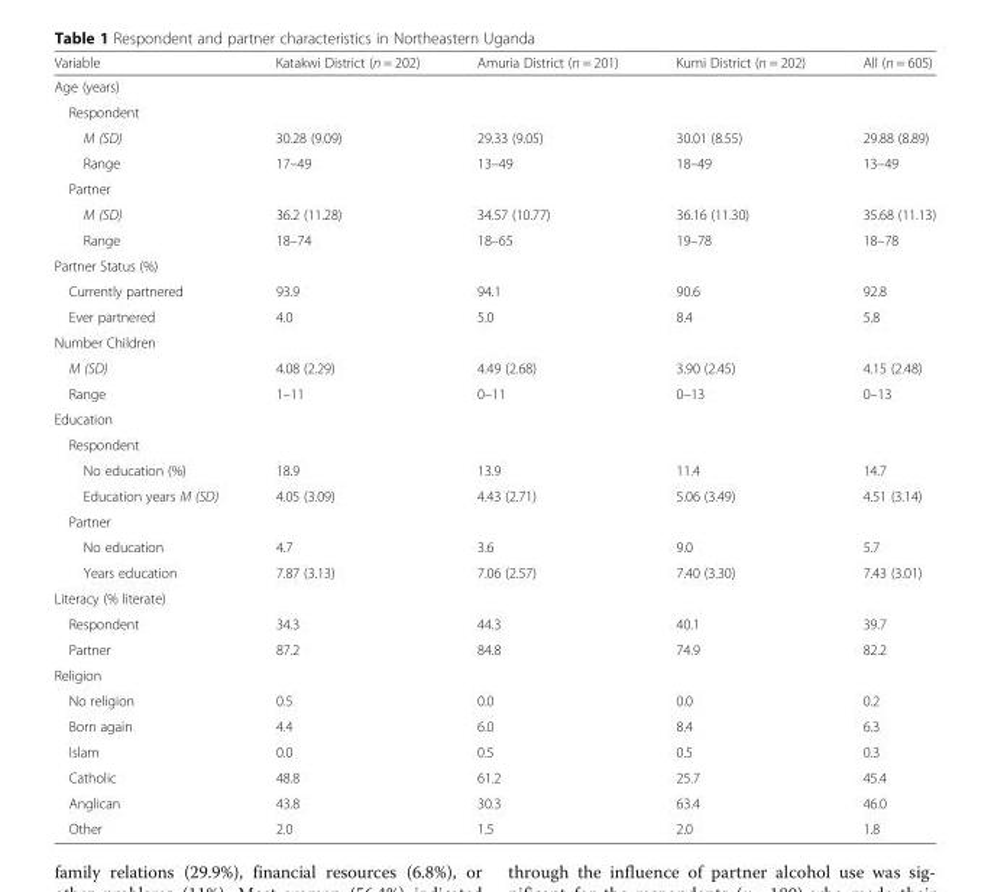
<table><thead><tr><td>Variable</td><td>Katakwi District (n = 202)</td><td>Amuria District (n = 201)</td><td>Kumi District (n = 202)</td><td>All (n = 605)</td></tr></thead><tbody><tr><td colspan="5">Age (years)</td></tr><tr><td colspan="5">Respondent</td></tr><tr><td>M (SD)</td><td>30.28 (9.09)</td><td>29.33 (9.05)</td><td>30.01 (8.55)</td><td>29.88 (8.89)</td></tr><tr><td>Range</td><td>17–49</td><td>13–49</td><td>18–49</td><td>13–49</td></tr><tr><td colspan="5">Partner</td></tr><tr><td>M (SD)</td><td>36.2 (11.28)</td><td>34.57 (10.77)</td><td>36.16 (11.30)</td><td>35.68 (11.13)</td></tr><tr><td>Range</td><td>18–74</td><td>18–65</td><td>19–78</td><td>18–78</td></tr><tr><td colspan="5">Partner Status (%)</td></tr><tr><td>Currently partnered</td><td>93.9</td><td>94.1</td><td>90.6</td><td>92.8</td></tr><tr><td>Ever partnered</td><td>4.0</td><td>5.0</td><td>8.4</td><td>5.8</td></tr><tr><td colspan="5">Number Children</td></tr><tr><td>M (SD)</td><td>4.08 (2.29)</td><td>4.49 (2.68)</td><td>3.90 (2.45)</td><td>4.15 (2.48)</td></tr><tr><td>Range</td><td>1–11</td><td>0–11</td><td>0–13</td><td>0–13</td></tr><tr><td colspan="5">Education</td></tr><tr><td colspan="5">Respondent</td></tr><tr><td>No education (%)</td><td>18.9</td><td>13.9</td><td>11.4</td><td>14.7</td></tr><tr><td>Education years M (SD)</td><td>4.05 (3.09)</td><td>4.43 (2.71)</td><td>5.06 (3.49)</td><td>4.51 (3.14)</td></tr><tr><td colspan="5">Partner</td></tr><tr><td>No education</td><td>4.7</td><td>3.6</td><td>9.0</td><td>5.7</td></tr><tr><td>Years education</td><td>7.87 (3.13)</td><td>7.06 (2.57)</td><td>7.40 (3.30)</td><td>7.43 (3.01)</td></tr><tr><td colspan="5">Literacy (% literate)</td></tr><tr><td>Respondent</td><td>34.3</td><td>44.3</td><td>40.1</td><td>39.7</td></tr><tr><td>Partner</td><td>87.2</td><td>84.8</td><td>74.9</td><td>82.2</td></tr><tr><td colspan="5">Religion</td></tr><tr><td>No religion</td><td>0.5</td><td>0.0</td><td>0.0</td><td>0.2</td></tr><tr><td>Born again</td><td>4.4</td><td>6.0</td><td>8.4</td><td>6.3</td></tr><tr><td>Islam</td><td>0.0</td><td>0.5</td><td>0.5</td><td>0.3</td></tr><tr><td>Catholic</td><td>48.8</td><td>61.2</td><td>25.7</td><td>45.4</td></tr><tr><td>Anglican</td><td>43.8</td><td>30.3</td><td>63.4</td><td>46.0</td></tr><tr><td>Other</td><td>2.0</td><td>1.5</td><td>2.0</td><td>1.8</td></tr></tbody></table>